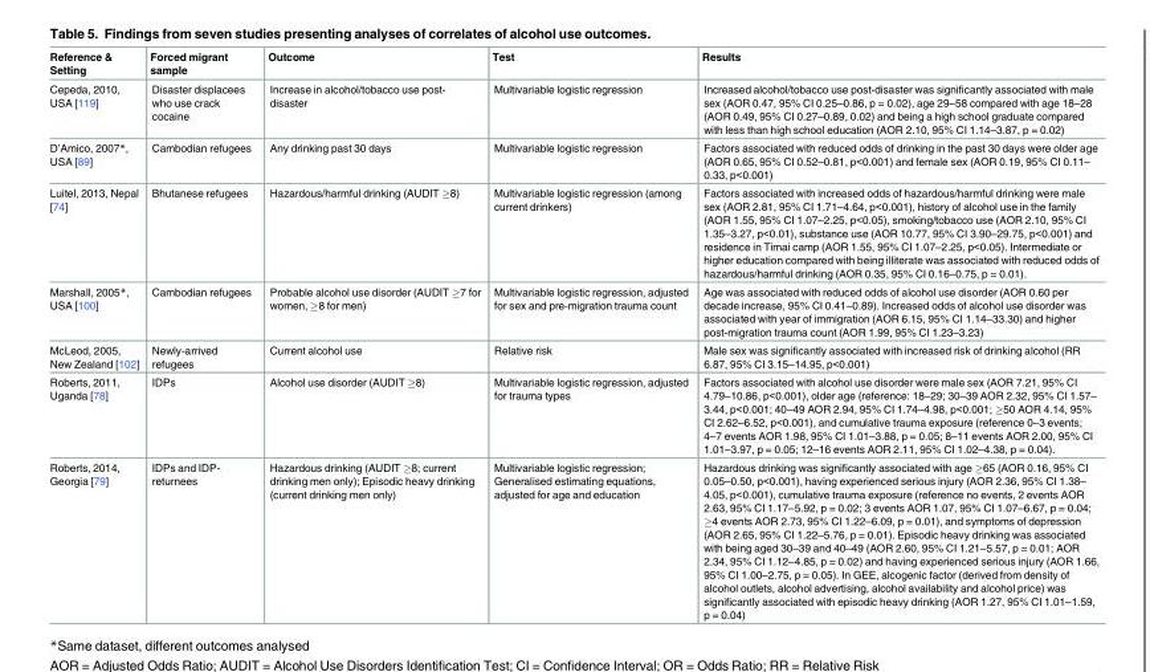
<table><thead><tr><td>Reference &amp; Setting</td><td>Forced migrant sample</td><td>Outcome</td><td>Test</td><td>Results</td></tr></thead><tbody><tr><td>Cepeda, 2010, USA [119]</td><td>Disaster displacees who use crack cocaine</td><td>Increase in alcohol/tobacco use post- disaster</td><td>Multivariable logistic regression</td><td>Increased alcohol/tobacco use post-disaster was significantly associated with male sex (AOR 0.47, 95% CI 0.25–0.86, p = 0.02), age 29–58 compared with age 18–28 (AOR 0.49, 95% CI 0.27–0.89, 0.02) and being a high school graduate compared with less than high school education (AOR 2.10, 95% CI 1.14–3.87, p = 0.02)</td></tr><tr><td>D’Amico, 2007*, USA [89]</td><td>Cambodian refugees</td><td>Any drinking past 30 days</td><td>Multivariable logistic regression</td><td>Factors associated with reduced odds of drinking in the past 30 days were older age (AOR 0.65, 95% CI 0.52–0.81, p&lt;0.001) and female sex (AOR 0.19, 95% CI 0.11– 0.33, p&lt;0.001)</td></tr><tr><td>Luitel, 2013, Nepal [74]</td><td>Bhutanese refugees</td><td>Hazardous/harmful drinking (AUDIT ≥8)</td><td>Multivariable logistic regression (among current drinkers)</td><td>Factors associated with increased odds of hazardous/harmful drinking were male sex (AOR 2.81, 95% CI 1.71–4.64, p&lt;0.001), history of alcohol use in the family (AOR 1.55, 95% CI 1.07–2.25, p&lt;0.05), smoking/tobacco use (AOR 2.10, 95% CI 1.35–3.27, p&lt;0.01), substance use (AOR 10.77, 95% CI 3.90–29.75, p&lt;0.001) and residence in Timai camp (AOR 1.55, 95% CI 1.07–2.25, p&lt;0.05). Intermediate or higher education compared with being illiterate was associated with reduced odds of hazardous/harmful drinking (AOR 0.35, 95% CI 0.16–0.75, p = 0.01).</td></tr><tr><td>Marshall, 2005*, USA [100]</td><td>Cambodian refugees</td><td>Probable alcohol use disorder (AUDIT ≥7 for women, ≥8 for men)</td><td>Multivariable logistic regression, adjusted for sex and pre-migration trauma count</td><td>Age was associated with reduced odds of alcohol use disorder (AOR 0.60 per decade increase, 95% CI 0.41–0.89). Increased odds of alcohol use disorder was associated with year of immigration (AOR 6.15, 95% CI 1.14–33.30) and higher post-migration trauma count (AOR 1.99, 95% CI 1.23–3.23)</td></tr><tr><td>McLeod, 2005, New Zealand [102]</td><td>Newly-arrived refugees</td><td>Current alcohol use</td><td>Relative risk</td><td>Male sex was significantly associated with increased risk of drinking alcohol (RR 6.87, 95% CI 3.15–14.95, p&lt;0.001)</td></tr><tr><td>Roberts, 2011, Uganda [78]</td><td>IDPs</td><td>Alcohol use disorder (AUDIT ≥8)</td><td>Multivariable logistic regression, adjusted for trauma types</td><td>Factors associated with alcohol use disorder were male sex (AOR 7.21, 95% CI 4.79–10.86, p&lt;0.001), older age (reference: 18–29; 30–39 AOR 2.32, 95% CI 1.57– 3.44, p&lt;0.001; 40–49 AOR 2.94, 95% CI 1.74–4.98, p&lt;0.001; ≥50 AOR 4.14, 95% CI 2.62–6.52, p&lt;0.001), and cumulative trauma exposure (reference 0–3 events; 4–7 events AOR 1.98, 95% CI 1.01–3.88, p = 0.05; 8–11 events AOR 2.00, 95% CI 1.01–3.97, p = 0.05; 12–16 events AOR 2.11, 95% CI 1.02–4.38, p = 0.04).</td></tr><tr><td>Roberts, 2014, Georgia [79]</td><td>IDPs and IDP- returnees</td><td>Hazardous drinking (AUDIT ≥8; current drinking men only); Episodic heavy drinking (current drinking men only)</td><td>Multivariable logistic regression; Generalised estimating equations, adjusted for age and education</td><td>Hazardous drinking was significantly associated with age ≥65 (AOR 0.16, 95% CI 0.05–0.50, p&lt;0.001), having experienced serious injury (AOR 2.36, 95% CI 1.38– 4.05, p&lt;0.001), cumulative trauma exposure (reference no events, 2 events AOR 2.63, 95% CI 1.17–5.92, p = 0.02; 3 events AOR 1.07, 95% CI 1.07–6.67, p = 0.04; ≥4 events AOR 2.73, 95% CI 1.22–6.09, p = 0.01), and symptoms of depression (AOR 2.65, 95% CI 1.22–5.76, p = 0.01). Episodic heavy drinking was associated with being aged 30–39 and 40–49 (AOR 2.60, 95% CI 1.21–5.57, p = 0.01; AOR 2.34, 95% CI 1.12–4.85, p = 0.02) and having experienced serious injury (AOR 1.66, 95% CI 1.00–2.75, p = 0.05). In GEE, alcogenic factor (derived from density of alcohol outlets, alcohol advertising, alcohol availability and alcohol price) was significantly associated with episodic heavy drinking (AOR 1.27, 95% CI 1.01–1.59, p = 0.04)</td></tr></tbody></table>